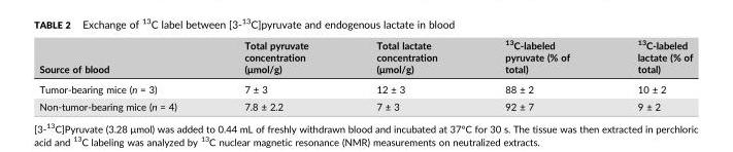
<table><thead><tr><td>Source of blood</td><td>Total pyruvate concentration (μmol/g)</td><td>Total lactate concentration (μmol/g)</td><td><sup>13</sup>C‐labeled pyruvate (% of total)</td><td><sup>13</sup>C‐labeled lactate (% of total)</td></tr></thead><tbody><tr><td>Tumor‐bearing mice (n = 3)</td><td>7 ± 3</td><td>12 ± 3</td><td>88 ± 2</td><td>10 ± 2</td></tr><tr><td>Non‐tumor‐bearing mice (n = 4)</td><td>7.8 ± 2.2</td><td>7 ± 3</td><td>92 ± 7</td><td>9 ± 2</td></tr></tbody></table>